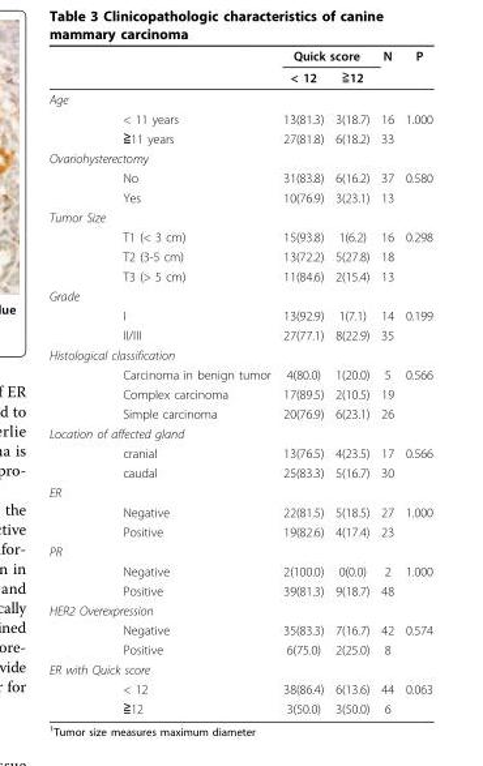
<table><thead><tr><td rowspan="2"></td><td colspan="2">Quick score</td><td rowspan="2">N</td><td rowspan="2">P</td></tr><tr><td>&lt; 12</td><td>≧12</td></tr></thead><tbody><tr><td colspan="5">Age</td></tr><tr><td>&lt; 11 years</td><td>13(81.3)</td><td>3(18.7)</td><td>16</td><td>1.000</td></tr><tr><td>≧11 years</td><td>27(81.8)</td><td>6(18.2)</td><td>33</td><td></td></tr><tr><td colspan="5">Ovariohysterectomy</td></tr><tr><td>No</td><td>31(83.8)</td><td>6(16.2)</td><td>37</td><td>0.580</td></tr><tr><td>Yes</td><td>10(76.9)</td><td>3(23.1)</td><td>13</td><td></td></tr><tr><td colspan="5">Tumor Size</td></tr><tr><td>T1 (&lt; 3 cm)</td><td>15(93.8)</td><td>1(6.2)</td><td>16</td><td>0.298</td></tr><tr><td>T2 (3-5 cm)</td><td>13(72.2)</td><td>5(27.8)</td><td>18</td><td></td></tr><tr><td>T3 (&gt; 5 cm)</td><td>11(84.6)</td><td>2(15.4)</td><td>13</td><td></td></tr><tr><td colspan="5">Grade</td></tr><tr><td>I</td><td>13(92.9)</td><td>1(7.1)</td><td>14</td><td>0.199</td></tr><tr><td>II/III</td><td>27(77.1)</td><td>8(22.9)</td><td>35</td><td></td></tr><tr><td colspan="5">Histological classification</td></tr><tr><td>Carcinoma in benign tumor</td><td>4(80.0)</td><td>1(20.0)</td><td>5</td><td>0.566</td></tr><tr><td>Complex carcinoma</td><td>17(89.5)</td><td>2(10.5)</td><td>19</td><td></td></tr><tr><td>Simple carcinoma</td><td>20(76.9)</td><td>6(23.1)</td><td>26</td><td></td></tr><tr><td colspan="5">Location of affected gland</td></tr><tr><td>cranial</td><td>13(76.5)</td><td>4(23.5)</td><td>17</td><td>0.566</td></tr><tr><td>caudal</td><td>25(83.3)</td><td>5(16.7)</td><td>30</td><td></td></tr><tr><td colspan="5">ER</td></tr><tr><td>Negative</td><td>22(81.5)</td><td>5(18.5)</td><td>27</td><td>1.000</td></tr><tr><td>Positive</td><td>19(82.6)</td><td>4(17.4)</td><td>23</td><td></td></tr><tr><td colspan="5">PR</td></tr><tr><td>Negative</td><td>2(100.0)</td><td>0(0.0)</td><td>2</td><td>1.000</td></tr><tr><td>Positive</td><td>39(81.3)</td><td>9(18.7)</td><td>48</td><td></td></tr><tr><td colspan="5">HER2 Overexpression</td></tr><tr><td>Negative</td><td>35(83.3)</td><td>7(16.7)</td><td>42</td><td>0.574</td></tr><tr><td>Positive</td><td>6(75.0)</td><td>2(25.0)</td><td>8</td><td></td></tr><tr><td colspan="5">ER with Quick score</td></tr><tr><td>&lt; 12</td><td>38(86.4)</td><td>6(13.6)</td><td>44</td><td>0.063</td></tr><tr><td>≧12</td><td>3(50.0)</td><td>3(50.0)</td><td>6</td><td></td></tr></tbody></table>